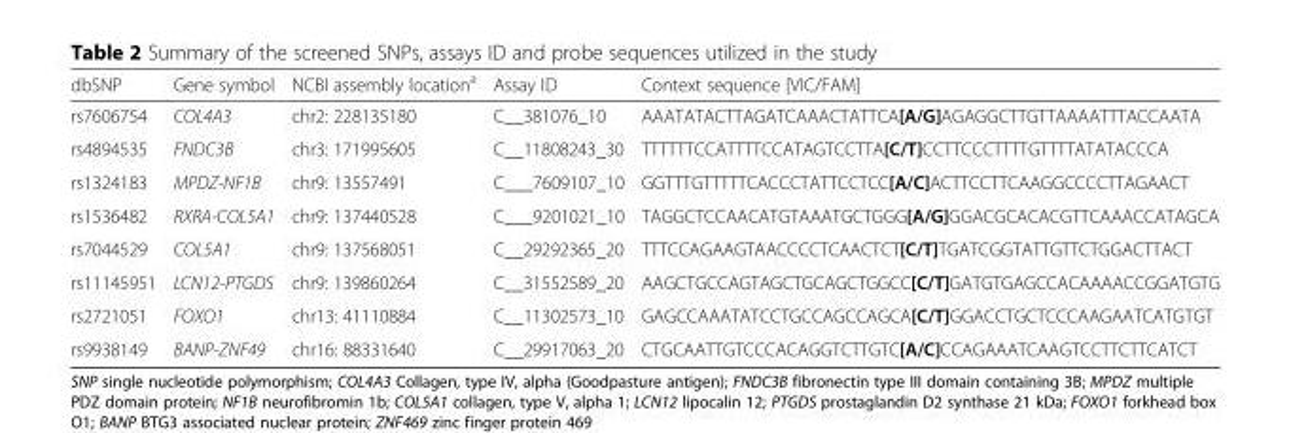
<table><thead><tr><td>dbSNP</td><td>Gene symbol</td><td>NCBI assembly location<sup>a</sup></td><td>Assay ID</td><td>Context sequence [VIC/FAM]</td></tr></thead><tbody><tr><td>rs7606754</td><td>COL4A3</td><td>chr2: 228135180</td><td>C__381076_10</td><td>AAATATACTTAGATCAAACTATTCA[A/G]AGAGGCTTGTTAAAATTTACCAATA</td></tr><tr><td>rs4894535</td><td>FNDC3B</td><td>chr3: 171995605</td><td>C__11808243_30</td><td>TTTTTTCCATTTTCCATAGTCCTTA[C/T]CCTTCCCTTTTGTTTTATATACCCA</td></tr><tr><td>rs1324183</td><td>MPDZ-NF1B</td><td>chr9: 13557491</td><td>C___7609107_10</td><td>GGTTTGTTTTTCACCCTATTCCTCC[A/C]ACTTCCTTCAAGGCCCCTTAGAACT</td></tr><tr><td>rs1536482</td><td>RXRA-COL5A1</td><td>chr9: 137440528</td><td>C___9201021_10</td><td>TAGGCTCCAACATGTAAATGCTGGG[A/G]GGACGCACACGTTCAAACCATAGCA</td></tr><tr><td>rs7044529</td><td>COL5A1</td><td>chr9: 137568051</td><td>C__29292365_20</td><td>TTTCCAGAAGTAACCCCTCAACTCT[C/T]TGATCGGTATTGTTCTGGACTTACT</td></tr><tr><td>rs11145951</td><td>LCN12-PTGDS</td><td>chr9: 139860264</td><td>C__31552589_20</td><td>AAGCTGCCAGTAGCTGCAGCTGGCC[C/T]GATGTGAGCCACAAAACCGGATGTG</td></tr><tr><td>rs2721051</td><td>FOXO1</td><td>chr13: 41110884</td><td>C__11302573_10</td><td>GAGCCAAATATCCTGCCAGCCAGCA[C/T]GGACCTGCTCCCAAGAATCATGTGT</td></tr><tr><td>rs9938149</td><td>BANP-ZNF49</td><td>chr16: 88331640</td><td>C__29917063_20</td><td>CTGCAATTGTCCCACAGGTCTTGTC[A/C]CCAGAAATCAAGTCCTTCTTCATCT</td></tr></tbody></table>